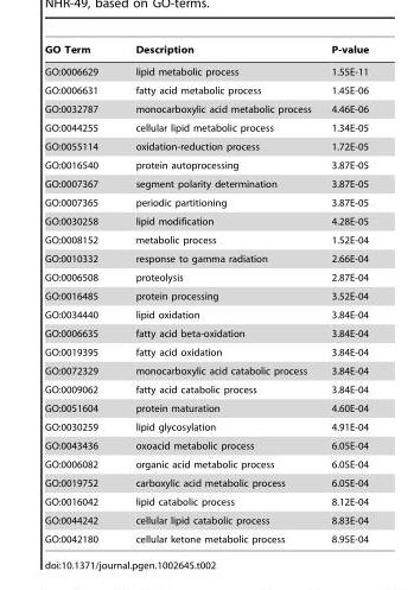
<table><thead><tr><td>GO Term</td><td>Description</td><td>P-value</td></tr></thead><tbody><tr><td>GO:0006629</td><td>lipid metabolic process</td><td>1.55E-11</td></tr><tr><td>GO:0006631</td><td>fatty acid metabolic process</td><td>1.45E-06</td></tr><tr><td>GO:0032787</td><td>monocarboxylic acid metabolic process</td><td>4.46E-06</td></tr><tr><td>GO:0044255</td><td>cellular lipid metabolic process</td><td>1.34E-05</td></tr><tr><td>GO:0055114</td><td>oxidation-reduction process</td><td>1.72E-05</td></tr><tr><td>GO:0016540</td><td>protein autoprocessing</td><td>3.87E-05</td></tr><tr><td>GO:0007367</td><td>segment polarity determination</td><td>3.87E-05</td></tr><tr><td>GO:0007365</td><td>periodic partitioning</td><td>3.87E-05</td></tr><tr><td>GO:0030258</td><td>lipid modification</td><td>4.28E-05</td></tr><tr><td>GO:0008152</td><td>metabolic process</td><td>1.52E-04</td></tr><tr><td>GO:0010332</td><td>response to gamma radiation</td><td>2.66E-04</td></tr><tr><td>GO:0006508</td><td>proteolysis</td><td>2.87E-04</td></tr><tr><td>GO:0016485</td><td>protein processing</td><td>3.52E-04</td></tr><tr><td>GO:0034440</td><td>lipid oxidation</td><td>3.84E-04</td></tr><tr><td>GO:0006635</td><td>fatty acid beta-oxidation</td><td>3.84E-04</td></tr><tr><td>GO:0019395</td><td>fatty acid oxidation</td><td>3.84E-04</td></tr><tr><td>GO:0072329</td><td>monocarboxylic acid catabolic process</td><td>3.84E-04</td></tr><tr><td>GO:0009062</td><td>fatty acid catabolic process</td><td>3.84E-04</td></tr><tr><td>GO:0051604</td><td>protein maturation</td><td>4.60E-04</td></tr><tr><td>GO:0030259</td><td>lipid glycosylation</td><td>4.91E-04</td></tr><tr><td>GO:0043436</td><td>oxoacid metabolic process</td><td>6.05E-04</td></tr><tr><td>GO:0006082</td><td>organic acid metabolic process</td><td>6.05E-04</td></tr><tr><td>GO:0019752</td><td>carboxylic acid metabolic process</td><td>6.05E-04</td></tr><tr><td>GO:0016042</td><td>lipid catabolic process</td><td>8.12E-04</td></tr><tr><td>GO:0044242</td><td>cellular lipid catabolic process</td><td>8.83E-04</td></tr><tr><td>GO:0042180</td><td>cellular ketone metabolic process</td><td>8.95E-04</td></tr></tbody></table>